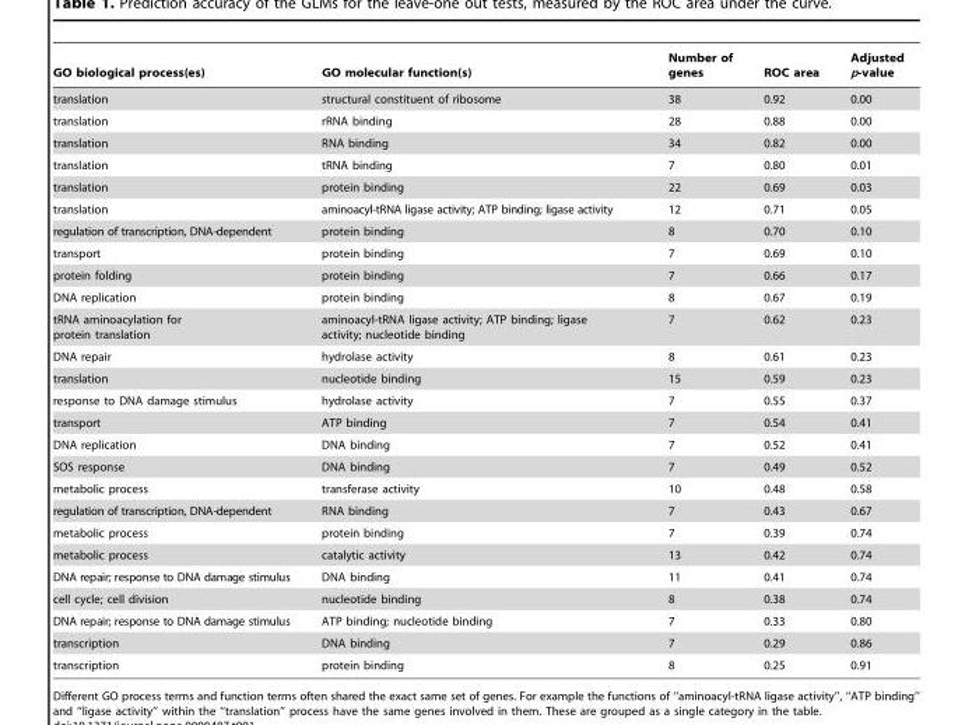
<table><thead><tr><td>GO biological process(es)</td><td>GO molecular function(s)</td><td>Number of genes</td><td>ROC area</td><td>Adjusted p-value</td></tr></thead><tbody><tr><td>translation</td><td>structural constituent of ribosome</td><td>38</td><td>0.92</td><td>0.00</td></tr><tr><td>translation</td><td>rRNA binding</td><td>28</td><td>0.88</td><td>0.00</td></tr><tr><td>translation</td><td>RNA binding</td><td>34</td><td>0.82</td><td>0.00</td></tr><tr><td>translation</td><td>tRNA binding</td><td>7</td><td>0.80</td><td>0.01</td></tr><tr><td>translation</td><td>protein binding</td><td>22</td><td>0.69</td><td>0.03</td></tr><tr><td>translation</td><td>aminoacyl-tRNA ligase activity; ATP binding; ligase activity</td><td>12</td><td>0.71</td><td>0.05</td></tr><tr><td>regulation of transcription, DNA-dependent</td><td>protein binding</td><td>8</td><td>0.70</td><td>0.10</td></tr><tr><td>transport</td><td>protein binding</td><td>7</td><td>0.69</td><td>0.10</td></tr><tr><td>protein folding</td><td>protein binding</td><td>7</td><td>0.66</td><td>0.17</td></tr><tr><td>DNA replication</td><td>protein binding</td><td>8</td><td>0.67</td><td>0.19</td></tr><tr><td>tRNA aminoacylation for protein translation</td><td>aminoacyl-tRNA ligase activity; ATP binding; ligase activity; nucleotide binding</td><td>7</td><td>0.62</td><td>0.23</td></tr><tr><td>DNA repair</td><td>hydrolase activity</td><td>8</td><td>0.61</td><td>0.23</td></tr><tr><td>translation</td><td>nucleotide binding</td><td>15</td><td>0.59</td><td>0.23</td></tr><tr><td>response to DNA damage stimulus</td><td>hydrolase activity</td><td>7</td><td>0.55</td><td>0.37</td></tr><tr><td>transport</td><td>ATP binding</td><td>7</td><td>0.54</td><td>0.41</td></tr><tr><td>DNA replication</td><td>DNA binding</td><td>7</td><td>0.52</td><td>0.41</td></tr><tr><td>SOS response</td><td>DNA binding</td><td>7</td><td>0.49</td><td>0.52</td></tr><tr><td>metabolic process</td><td>transferase activity</td><td>10</td><td>0.48</td><td>0.58</td></tr><tr><td>regulation of transcription, DNA-dependent</td><td>RNA binding</td><td>7</td><td>0.43</td><td>0.67</td></tr><tr><td>metabolic process</td><td>protein binding</td><td>7</td><td>0.39</td><td>0.74</td></tr><tr><td>metabolic process</td><td>catalytic activity</td><td>13</td><td>0.42</td><td>0.74</td></tr><tr><td>DNA repair; response to DNA damage stimulus</td><td>DNA binding</td><td>11</td><td>0.41</td><td>0.74</td></tr><tr><td>cell cycle; cell division</td><td>nucleotide binding</td><td>8</td><td>0.38</td><td>0.74</td></tr><tr><td>DNA repair; response to DNA damage stimulus</td><td>ATP binding; nucleotide binding</td><td>7</td><td>0.33</td><td>0.80</td></tr><tr><td>transcription</td><td>DNA binding</td><td>7</td><td>0.29</td><td>0.86</td></tr><tr><td>transcription</td><td>protein binding</td><td>8</td><td>0.25</td><td>0.91</td></tr></tbody></table>